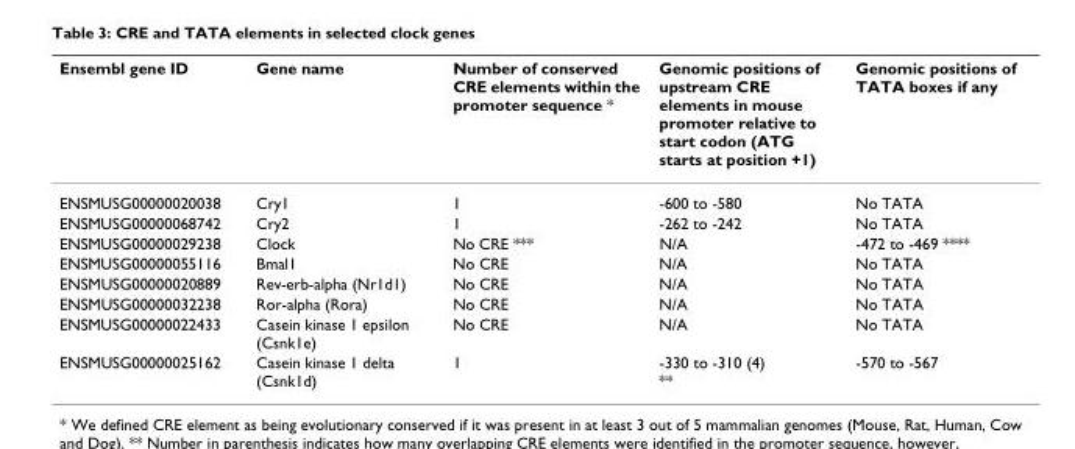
<table><thead><tr><td>Ensembl gene ID</td><td>Gene name</td><td>Number of conserved CRE elements within the promoter sequence *</td><td>Genomic positions of upstream CRE elements in mouse promoter relative to start codon (ATG starts at position +1)</td><td>Genomic positions of TATA boxes if any</td></tr></thead><tbody><tr><td>ENSMUSG00000020038</td><td>Cry1</td><td>1</td><td>-600 to -580</td><td>No TATA</td></tr><tr><td>ENSMUSG00000068742</td><td>Cry2</td><td>1</td><td>-262 to -242</td><td>No TATA</td></tr><tr><td>ENSMUSG00000029238</td><td>Clock</td><td>No CRE ***</td><td>N/A</td><td>-472 to -469 ****</td></tr><tr><td>ENSMUSG00000055116</td><td>Bmal1</td><td>No CRE</td><td>N/A</td><td>No TATA</td></tr><tr><td>ENSMUSG00000020889</td><td>Rev-erb-alpha (Nr1d1)</td><td>No CRE</td><td>N/A</td><td>No TATA</td></tr><tr><td>ENSMUSG00000032238</td><td>Ror-alpha (Rora)</td><td>No CRE</td><td>N/A</td><td>No TATA</td></tr><tr><td>ENSMUSG00000022433</td><td>Casein kinase 1 epsilon (Csnk1e)</td><td>No CRE</td><td>N/A</td><td>No TATA</td></tr><tr><td>ENSMUSG00000025162</td><td>Casein kinase 1 delta (Csnk1d)</td><td>1</td><td>-330 to -310 (4) **</td><td>-570 to -567</td></tr></tbody></table>